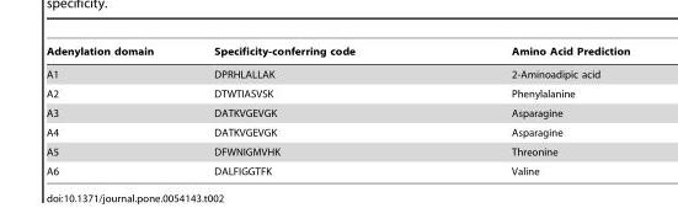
<table><thead><tr><td>Adenylation domain</td><td>Specificity-conferring code</td><td>Amino Acid Prediction</td></tr></thead><tbody><tr><td>A1</td><td>DPRHLALLAK</td><td>2-Aminoadipic acid</td></tr><tr><td>A2</td><td>DTWTIASVSK</td><td>Phenylalanine</td></tr><tr><td>A3</td><td>DATKVGEVGK</td><td>Asparagine</td></tr><tr><td>A4</td><td>DATKVGEVGK</td><td>Asparagine</td></tr><tr><td>A5</td><td>DFWNIGMVHK</td><td>Threonine</td></tr><tr><td>A6</td><td>DALFIGGTFK</td><td>Valine</td></tr></tbody></table>